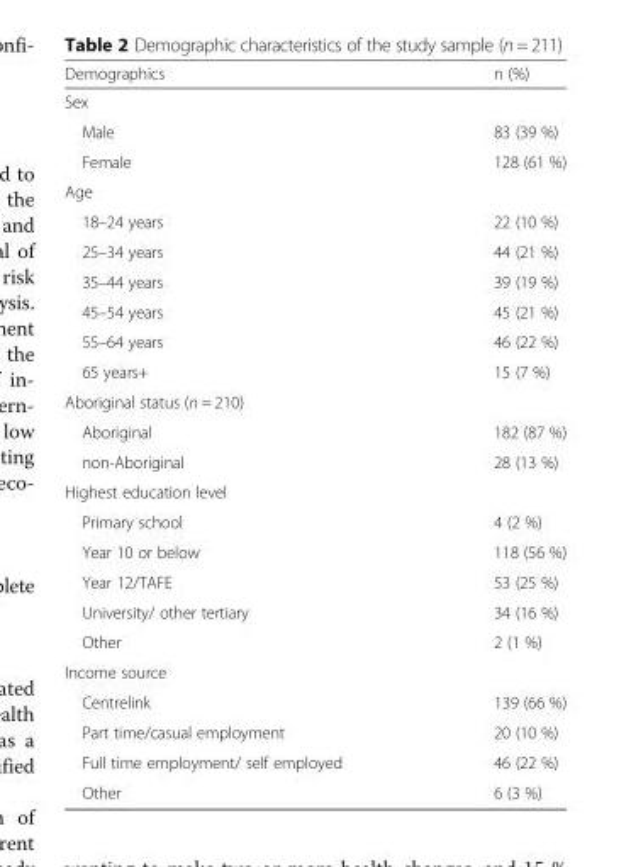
<table><thead><tr><td>Demographics</td><td>n (%)</td></tr></thead><tbody><tr><td colspan="2">Sex</td></tr><tr><td>Male</td><td>83 (39 %)</td></tr><tr><td>Female</td><td>128 (61 %)</td></tr><tr><td colspan="2">Age</td></tr><tr><td>18–24 years</td><td>22 (10 %)</td></tr><tr><td>25–34 years</td><td>44 (21 %)</td></tr><tr><td>35–44 years</td><td>39 (19 %)</td></tr><tr><td>45–54 years</td><td>45 (21 %)</td></tr><tr><td>55–64 years</td><td>46 (22 %)</td></tr><tr><td>65 years+</td><td>15 (7 %)</td></tr><tr><td colspan="2">Aboriginal status (n = 210)</td></tr><tr><td>Aboriginal</td><td>182 (87 %)</td></tr><tr><td>non-Aboriginal</td><td>28 (13 %)</td></tr><tr><td colspan="2">Highest education level</td></tr><tr><td>Primary school</td><td>4 (2 %)</td></tr><tr><td>Year 10 or below</td><td>118 (56 %)</td></tr><tr><td>Year 12/TAFE</td><td>53 (25 %)</td></tr><tr><td>University/ other tertiary</td><td>34 (16 %)</td></tr><tr><td>Other</td><td>2 (1 %)</td></tr><tr><td colspan="2">Income source</td></tr><tr><td>Centrelink</td><td>139 (66 %)</td></tr><tr><td>Part time/casual employment</td><td>20 (10 %)</td></tr><tr><td>Full time employment/ self employed</td><td>46 (22 %)</td></tr><tr><td>Other</td><td>6 (3 %)</td></tr></tbody></table>